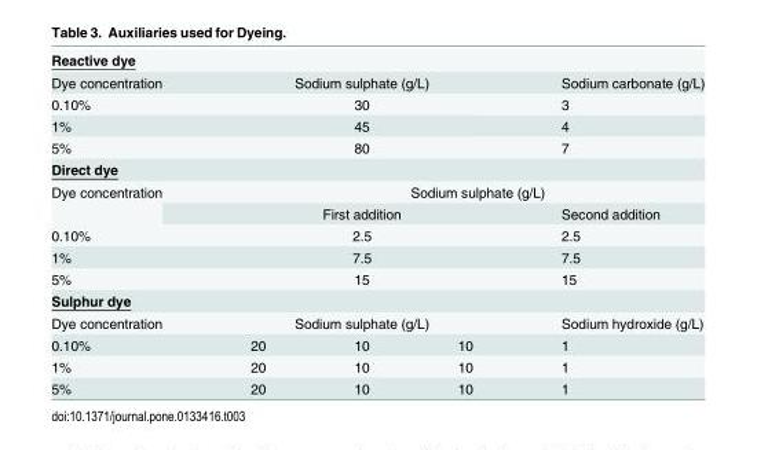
<table><tbody><tr><td colspan="5">Reactive dye</td></tr><tr><td>Dye concentration</td><td colspan="3">Sodium sulphate (g/L)</td><td>Sodium carbonate (g/L)</td></tr><tr><td>0.10%</td><td colspan="3">30</td><td>3</td></tr><tr><td>1%</td><td colspan="3">45</td><td>4</td></tr><tr><td>5%</td><td colspan="3">80</td><td>7</td></tr><tr><td colspan="5">Direct dye</td></tr><tr><td rowspan="2">Dye concentration</td><td colspan="4">Sodium sulphate (g/L)</td></tr><tr><td colspan="3">First addition</td><td>Second addition</td></tr><tr><td>0.10%</td><td colspan="3">2.5</td><td>2.5</td></tr><tr><td>1%</td><td colspan="3">7.5</td><td>7.5</td></tr><tr><td>5%</td><td colspan="3">15</td><td>15</td></tr><tr><td colspan="5">Sulphur dye</td></tr><tr><td>Dye concentration</td><td colspan="3">Sodium sulphate (g/L)</td><td>Sodium hydroxide (g/L)</td></tr><tr><td>0.10%</td><td>20</td><td>10</td><td>10</td><td>1</td></tr><tr><td>1%</td><td>20</td><td>10</td><td>10</td><td>1</td></tr><tr><td>5%</td><td>20</td><td>10</td><td>10</td><td>1</td></tr></tbody></table>